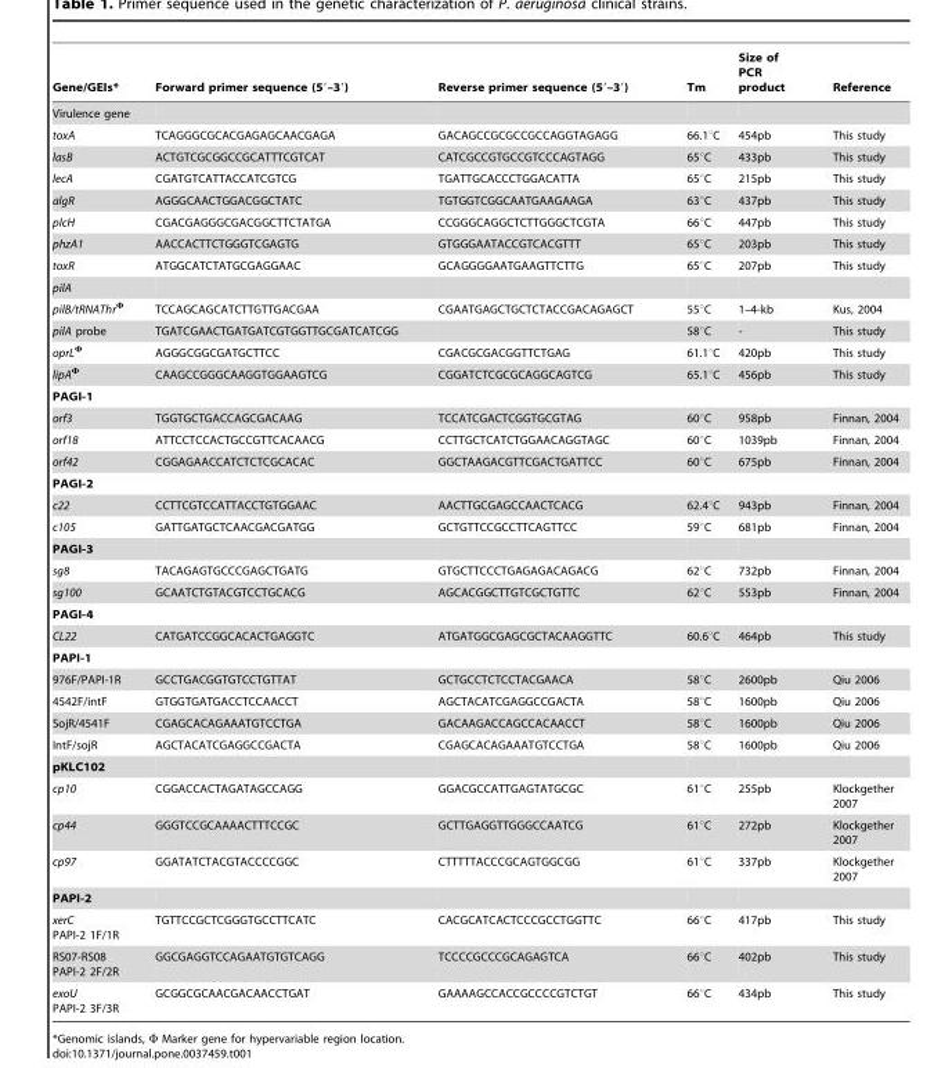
<table><thead><tr><td>Gene/GEIs*</td><td>Forward primer sequence (5′–3′)</td><td>Reverse primer sequence (5′–3′)</td><td>Tm</td><td>Size of PCR product</td><td>Reference</td></tr></thead><tbody><tr><td colspan="6">Virulence gene</td></tr><tr><td>toxA</td><td>TCAGGGCGCACGAGAGCAACGAGA</td><td>GACAGCCGCGCCGCCAGGTAGAGG</td><td>66.1°C</td><td>454pb</td><td>This study</td></tr><tr><td>lasB</td><td>ACTGTCGCGGCCGCATTTCGTCAT</td><td>CATCGCCGTGCCGTCCCAGTAGG</td><td>65°C</td><td>433pb</td><td>This study</td></tr><tr><td>lecA</td><td>CGATGTCATTACCATCGTCG</td><td>TGATTGCACCCTGGACATTA</td><td>65°C</td><td>215pb</td><td>This study</td></tr><tr><td>algR</td><td>AGGGCAACTGGACGGCTATC</td><td>TGTGGTCGGCAATGAAGAAGA</td><td>63°C</td><td>437pb</td><td>This study</td></tr><tr><td>plcH</td><td>CGACGAGGGCGACGGCTTCTATGA</td><td>CCGGGCAGGCTCTTGGGCTCGTA</td><td>66°C</td><td>447pb</td><td>This study</td></tr><tr><td>phzA1</td><td>AACCACTTCTGGGTCGAGTG</td><td>GTGGGAATACCGTCACGTTT</td><td>65°C</td><td>203pb</td><td>This study</td></tr><tr><td>toxR</td><td>ATGGCATCTATGCGAGGAAC</td><td>GCAGGGGAATGAAGTTCTTG</td><td>65°C</td><td>207pb</td><td>This study</td></tr><tr><td colspan="6">pilA</td></tr><tr><td>pilB/tRNAThr<sup>Φ</sup></td><td>TCCAGCAGCATCTTGTTGACGAA</td><td>CGAATGAGCTGCTCTACCGACAGAGCT</td><td>55°C</td><td>1–4-kb</td><td>Kus, 2004</td></tr><tr><td>pilA probe</td><td>TGATCGAACTGATGATCGTGGTTGCGATCATCGG</td><td></td><td>58°C</td><td>-</td><td>This study</td></tr><tr><td>oprL<sup>Φ</sup></td><td>AGGGCGGCGATGCTTCC</td><td>CGACGCGACGGTTCTGAG</td><td>61.1°C</td><td>420pb</td><td>This study</td></tr><tr><td>lipA<sup>Φ</sup></td><td>CAAGCCGGGCAAGGTGGAAGTCG</td><td>CGGATCTCGCGCAGGCAGTCG</td><td>65.1°C</td><td>456pb</td><td>This study</td></tr><tr><td colspan="6">PAGI-1</td></tr><tr><td>orf3</td><td>TGGTGCTGACCAGCGACAAG</td><td>TCCATCGACTCGGTGCGTAG</td><td>60°C</td><td>958pb</td><td>Finnan, 2004</td></tr><tr><td>orf18</td><td>ATTCCTCCACTGCCGTTCACAACG</td><td>CCTTGCTCATCTGGAACAGGTAGC</td><td>60°C</td><td>1039pb</td><td>Finnan, 2004</td></tr><tr><td>orf42</td><td>CGGAGAACCATCTCTCGCACAC</td><td>GGCTAAGACGTTCGACTGATTCC</td><td>60°C</td><td>675pb</td><td>Finnan, 2004</td></tr><tr><td colspan="6">PAGI-2</td></tr><tr><td>c22</td><td>CCTTCGTCCATTACCTGTGGAAC</td><td>AACTTGCGAGCCAACTCACG</td><td>62.4°C</td><td>943pb</td><td>Finnan, 2004</td></tr><tr><td>c105</td><td>GATTGATGCTCAACGACGATGG</td><td>GCTGTTCCGCCTTCAGTTCC</td><td>59°C</td><td>681pb</td><td>Finnan, 2004</td></tr><tr><td colspan="6">PAGI-3</td></tr><tr><td>sg8</td><td>TACAGAGTGCCCGAGCTGATG</td><td>GTGCTTCCCTGAGAGACAGACG</td><td>62°C</td><td>732pb</td><td>Finnan, 2004</td></tr><tr><td>sg100</td><td>GCAATCTGTACGTCCTGCACG</td><td>AGCACGGCTTGTCGCTGTTC</td><td>62°C</td><td>553pb</td><td>Finnan, 2004</td></tr><tr><td colspan="6">PAGI-4</td></tr><tr><td>CL22</td><td>CATGATCCGGCACACTGAGGTC</td><td>ATGATGGCGAGCGCTACAAGGTTC</td><td>60.6°C</td><td>464pb</td><td>This study</td></tr><tr><td colspan="6">PAPI-1</td></tr><tr><td>976F/PAPI-1R</td><td>GCCTGACGGTGTCCTGTTAT</td><td>GCTGCCTCTCCTACGAACA</td><td>58°C</td><td>2600pb</td><td>Qiu 2006</td></tr><tr><td>4542F/intF</td><td>GTGGTGATGACCTCCAACCT</td><td>AGCTACATCGAGGCCGACTA</td><td>58°C</td><td>1600pb</td><td>Qiu 2006</td></tr><tr><td>SojR/4541F</td><td>CGAGCACAGAAATGTCCTGA</td><td>GACAAGACCAGCCACAACCT</td><td>58°C</td><td>1600pb</td><td>Qiu 2006</td></tr><tr><td>IntF/sojR</td><td>AGCTACATCGAGGCCGACTA</td><td>CGAGCACAGAAATGTCCTGA</td><td>58°C</td><td>1600pb</td><td>Qiu 2006</td></tr><tr><td colspan="6">pKLC102</td></tr><tr><td>cp10</td><td>CGGACCACTAGATAGCCAGG</td><td>GGACGCCATTGAGTATGCGC</td><td>61°C</td><td>255pb</td><td>Klockgether 2007</td></tr><tr><td>cp44</td><td>GGGTCCGCAAAACTTTCCGC</td><td>GCTTGAGGTTGGGCCAATCG</td><td>61°C</td><td>272pb</td><td>Klockgether 2007</td></tr><tr><td>cp97</td><td>GGATATCTACGTACCCCGGC</td><td>CTTTTTACCCGCAGTGGCGG</td><td>61°C</td><td>337pb</td><td>Klockgether 2007</td></tr><tr><td colspan="6">PAPI-2</td></tr><tr><td>xerC PAPI-2 1F/1R</td><td>TGTTCCGCTCGGGTGCCTTCATC</td><td>CACGCATCACTCCCGCCTGGTTC</td><td>66°C</td><td>417pb</td><td>This study</td></tr><tr><td>RS07-RS08 PAPI-2 2F/2R</td><td>GGCGAGGTCCAGAATGTGTCAGG</td><td>TCCCCGCCCGCAGAGTCA</td><td>66°C</td><td>402pb</td><td>This study</td></tr><tr><td>exoU PAPI-2 3F/3R</td><td>GCGGCGCAACGACAACCTGAT</td><td>GAAAAGCCACCGCCCCGTCTGT</td><td>66°C</td><td>434pb</td><td>This study</td></tr></tbody></table>